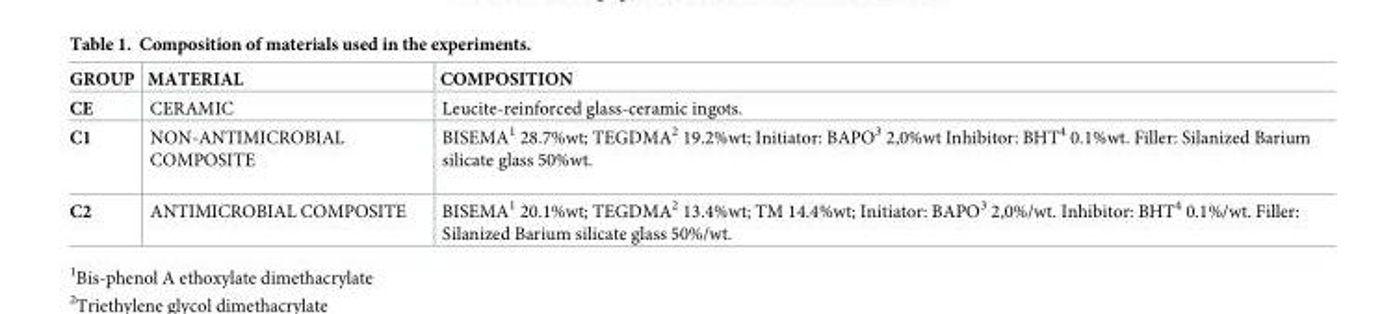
<table><thead><tr><td>GROUP</td><td>MATERIAL</td><td>COMPOSITION</td></tr></thead><tbody><tr><td>CE</td><td>CERAMIC</td><td>Leucite-reinforced glass-ceramic ingots.</td></tr><tr><td>C1</td><td>NON-ANTIMICROBIAL COMPOSITE</td><td>BISEMA<sup>1</sup> 28.7%wt; TEGDMA<sup>2</sup> 19.2%wt; Initiator: BAPO<sup>3</sup> 2,0%wt Inhibitor: BHT<sup>4</sup> 0.1%wt. Filler: Silanized Barium silicate glass 50%wt.</td></tr><tr><td>C2</td><td>ANTIMICROBIAL COMPOSITE</td><td>BISEMA<sup>1</sup> 20.1%wt; TEGDMA<sup>2</sup> 13.4%wt; TM 14.4%wt; Initiator: BAPO<sup>3</sup> 2,0%/wt. Inhibitor: BHT<sup>4</sup> 0.1%/wt. Filler: Silanized Barium silicate glass 50%/wt.</td></tr></tbody></table>